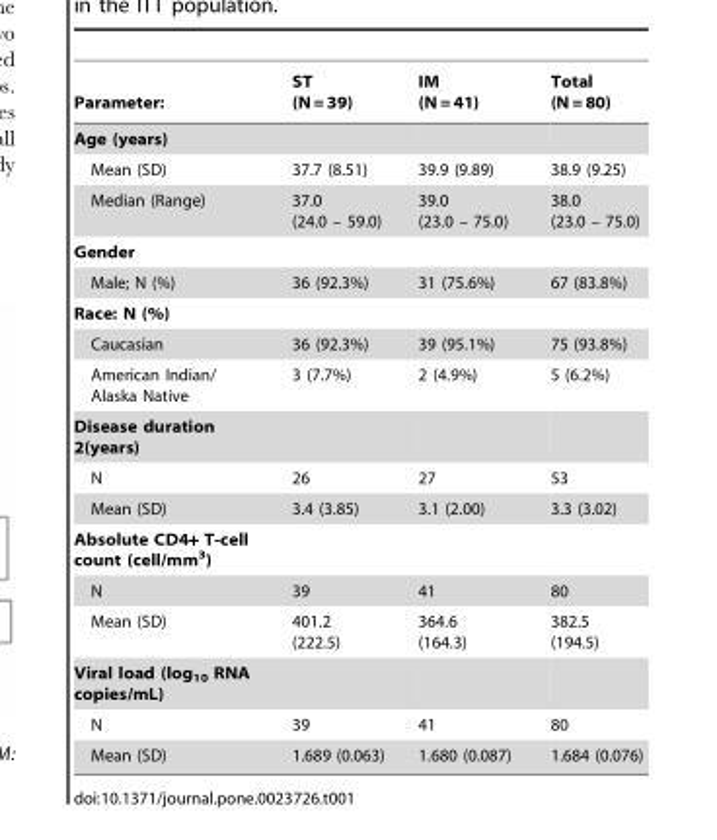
<table><thead><tr><td>Parameter:</td><td>ST (N = 39)</td><td>IM (N = 41)</td><td>Total (N = 80)</td></tr></thead><tbody><tr><td colspan="4">Age (years)</td></tr><tr><td>Mean (SD)</td><td>37.7 (8.51)</td><td>39.9 (9.89)</td><td>38.9 (9.25)</td></tr><tr><td>Median (Range)</td><td>37.0 (24.0 – 59.0)</td><td>39.0 (23.0 – 75.0)</td><td>38.0 (23.0 – 75.0)</td></tr><tr><td colspan="4">Gender</td></tr><tr><td>Male; N (%)</td><td>36 (92.3%)</td><td>31 (75.6%)</td><td>67 (83.8%)</td></tr><tr><td colspan="4">Race: N (%)</td></tr><tr><td>Caucasian</td><td>36 (92.3%)</td><td>39 (95.1%)</td><td>75 (93.8%)</td></tr><tr><td>American Indian/ Alaska Native</td><td>3 (7.7%)</td><td>2 (4.9%)</td><td>5 (6.2%)</td></tr><tr><td colspan="4">Disease duration 2(years)</td></tr><tr><td>N</td><td>26</td><td>27</td><td>53</td></tr><tr><td>Mean (SD)</td><td>3.4 (3.85)</td><td>3.1 (2.00)</td><td>3.3 (3.02)</td></tr><tr><td colspan="4">Absolute CD4+ T-cell count (cell/mm<sup>3</sup>)</td></tr><tr><td>N</td><td>39</td><td>41</td><td>80</td></tr><tr><td>Mean (SD)</td><td>401.2 (222.5)</td><td>364.6 (164.3)</td><td>382.5 (194.5)</td></tr><tr><td colspan="4">Viral load (log<sub>10</sub> RNA copies/mL)</td></tr><tr><td>N</td><td>39</td><td>41</td><td>80</td></tr><tr><td>Mean (SD)</td><td>1.689 (0.063)</td><td>1.680 (0.087)</td><td>1.684 (0.076)</td></tr></tbody></table>